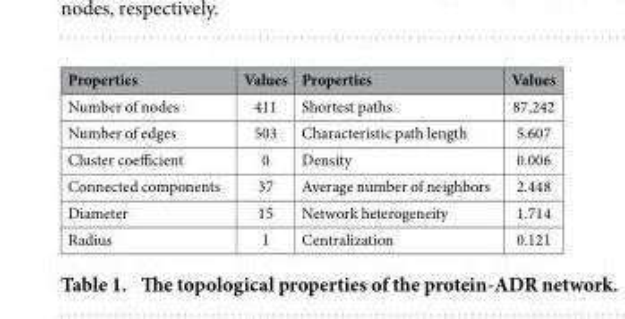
<table><thead><tr><td>Properties</td><td>Values</td><td>Properties</td><td>Values</td></tr></thead><tbody><tr><td>Number of nodes</td><td>411</td><td>Shortest paths</td><td>87,242</td></tr><tr><td>Number of edges</td><td>503</td><td>Characteristic path length</td><td>5.607</td></tr><tr><td>Cluster coefficient</td><td>0</td><td>Density</td><td>0.006</td></tr><tr><td>Connected components</td><td>37</td><td>Average number of neighbors</td><td>2.448</td></tr><tr><td>Diameter</td><td>15</td><td>Network heterogeneity</td><td>1.714</td></tr><tr><td>Radius</td><td>1</td><td>Centralization</td><td>0.121</td></tr></tbody></table>